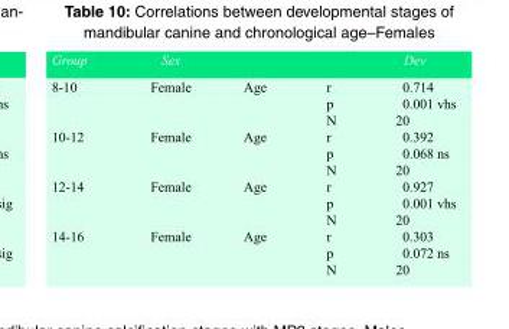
<table><tbody><tr><td>Group</td><td>Sex</td><td></td><td></td><td>Dev</td></tr><tr><td rowspan="3">8-10</td><td>Female</td><td>Age</td><td>r</td><td>0.714</td></tr><tr><td></td><td></td><td>p</td><td>0.001 vhs</td></tr><tr><td></td><td></td><td>N</td><td>20</td></tr><tr><td rowspan="3">10-12</td><td>Female</td><td>Age</td><td>r</td><td>0.392</td></tr><tr><td></td><td></td><td>p</td><td>0.068 ns</td></tr><tr><td></td><td></td><td>N</td><td>20</td></tr><tr><td rowspan="3">12-14</td><td>Female</td><td>Age</td><td>r</td><td>0.927</td></tr><tr><td></td><td></td><td>p</td><td>0.001 vhs</td></tr><tr><td></td><td></td><td>N</td><td>20</td></tr><tr><td rowspan="3">14-16</td><td>Female</td><td>Age</td><td>r</td><td>0.303</td></tr><tr><td></td><td></td><td>p</td><td>0.072 ns</td></tr><tr><td></td><td></td><td>N</td><td>20</td></tr></tbody></table>